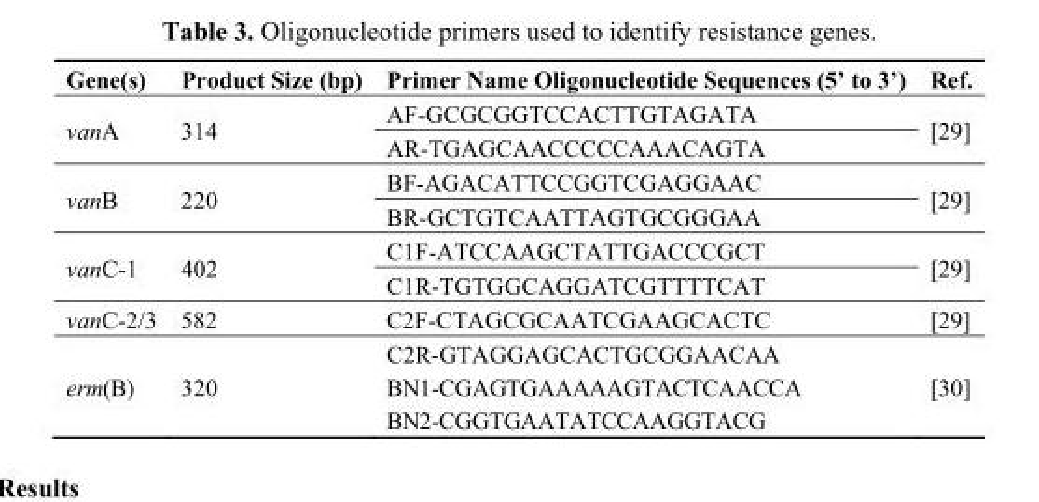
<table><thead><tr><td>Gene(s)</td><td>Product Size (bp)</td><td>Primer Name Oligonucleotide Sequences (5’ to 3’)</td><td>Ref.</td></tr></thead><tbody><tr><td rowspan="2">vanA</td><td rowspan="2">314</td><td>AF-GCGCGGTCCACTTGTAGATA</td><td rowspan="2">[29]</td></tr><tr><td>AR-TGAGCAACCCCCAAACAGTA</td></tr><tr><td rowspan="2">vanB</td><td rowspan="2">220</td><td>BF-AGACATTCCGGTCGAGGAAC</td><td rowspan="2">[29]</td></tr><tr><td>BR-GCTGTCAATTAGTGCGGGAA</td></tr><tr><td rowspan="2">vanC-1</td><td rowspan="2">402</td><td>C1F-ATCCAAGCTATTGACCCGCT</td><td rowspan="2">[29]</td></tr><tr><td>C1R-TGTGGCAGGATCGTTTTCAT</td></tr><tr><td>vanC-2/3</td><td>582</td><td>C2F-CTAGCGCAATCGAAGCACTC</td><td>[29]</td></tr><tr><td rowspan="3">erm(B)</td><td rowspan="3">320</td><td>C2R-GTAGGAGCACTGCGGAACAA</td><td rowspan="3">[30]</td></tr><tr><td>BN1-CGAGTGAAAAAGTACTCAACCA</td></tr><tr><td>BN2-CGGTGAATATCCAAGGTACG</td></tr></tbody></table>